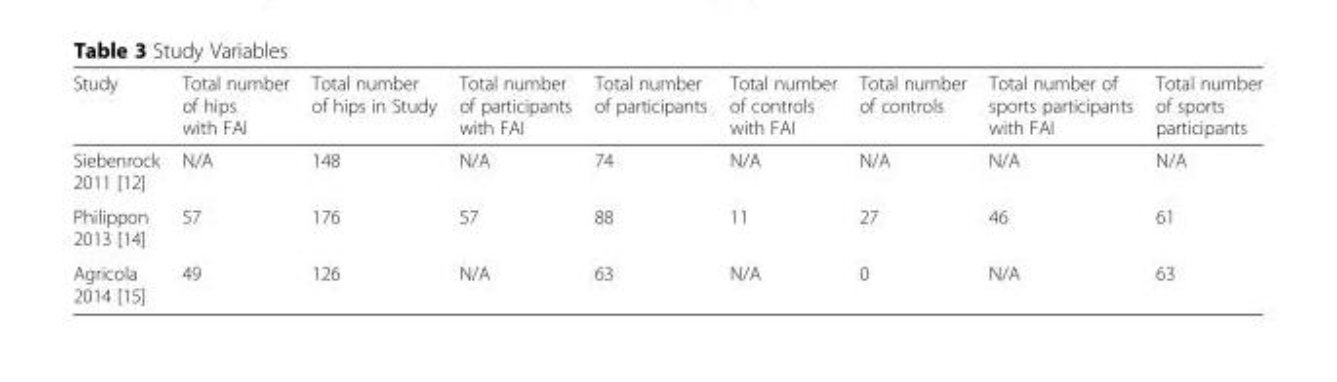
<table><thead><tr><td>Study</td><td>Total number of hips with FAI</td><td>Total number of hips in Study</td><td>Total number of participants with FAI</td><td>Total number of participants</td><td>Total number of controls with FAI</td><td>Total number of controls</td><td>Total number of sports participants with FAI</td><td>Total number of sports participants</td></tr></thead><tbody><tr><td>Siebenrock 2011 [12]</td><td>N/A</td><td>148</td><td>N/A</td><td>74</td><td>N/A</td><td>N/A</td><td>N/A</td><td>N/A</td></tr><tr><td>Philippon 2013 [14]</td><td>57</td><td>176</td><td>57</td><td>88</td><td>11</td><td>27</td><td>46</td><td>61</td></tr><tr><td>Agricola 2014 [15]</td><td>49</td><td>126</td><td>N/A</td><td>63</td><td>N/A</td><td>0</td><td>N/A</td><td>63</td></tr></tbody></table>